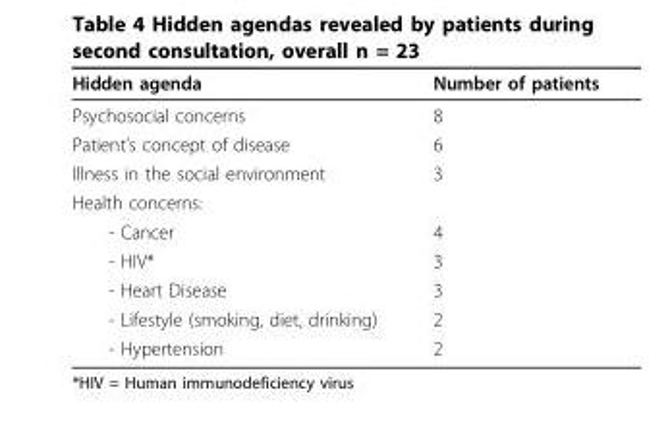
<table><thead><tr><td>Hidden agenda</td><td>Number of patients</td></tr></thead><tbody><tr><td>Psychosocial concerns</td><td>8</td></tr><tr><td>Patient’s concept of disease</td><td>6</td></tr><tr><td>Illness in the social environment</td><td>3</td></tr><tr><td colspan="2">Health concerns:</td></tr><tr><td>- Cancer</td><td>4</td></tr><tr><td>- HIV*</td><td>3</td></tr><tr><td>- Heart Disease</td><td>3</td></tr><tr><td>- Lifestyle (smoking, diet, drinking)</td><td>2</td></tr><tr><td>- Hypertension</td><td>2</td></tr></tbody></table>